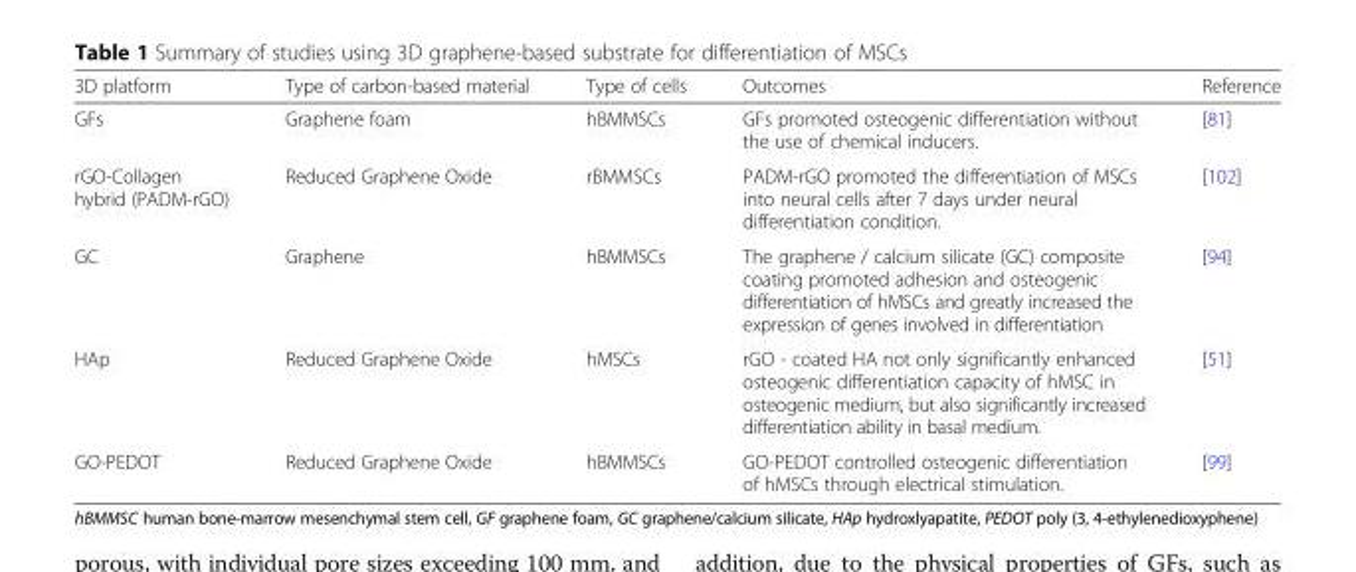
<table><thead><tr><td>3D platform</td><td>Type of carbon-based material</td><td>Type of cells</td><td>Outcomes</td><td>Reference</td></tr></thead><tbody><tr><td>GFs</td><td>Graphene foam</td><td>hBMMSCs</td><td>GFs promoted osteogenic differentiation without the use of chemical inducers.</td><td>[81]</td></tr><tr><td>rGO-Collagen hybrid (PADM-rGO)</td><td>Reduced Graphene Oxide</td><td>rBMMSCs</td><td>PADM-rGO promoted the differentiation of MSCs into neural cells after 7 days under neural differentiation condition.</td><td>[102]</td></tr><tr><td>GC</td><td>Graphene</td><td>hBMMSCs</td><td>The graphene / calcium silicate (GC) composite coating promoted adhesion and osteogenic differentiation of hMSCs and greatly increased the expression of genes involved in differentiation</td><td>[94]</td></tr><tr><td>HAp</td><td>Reduced Graphene Oxide</td><td>hMSCs</td><td>rGO - coated HA not only significantly enhanced osteogenic differentiation capacity of hMSC in osteogenic medium, but also significantly increased differentiation ability in basal medium.</td><td>[51]</td></tr><tr><td>GO-PEDOT</td><td>Reduced Graphene Oxide</td><td>hBMMSCs</td><td>GO-PEDOT controlled osteogenic differentiation of hMSCs through electrical stimulation.</td><td>[99]</td></tr></tbody></table>